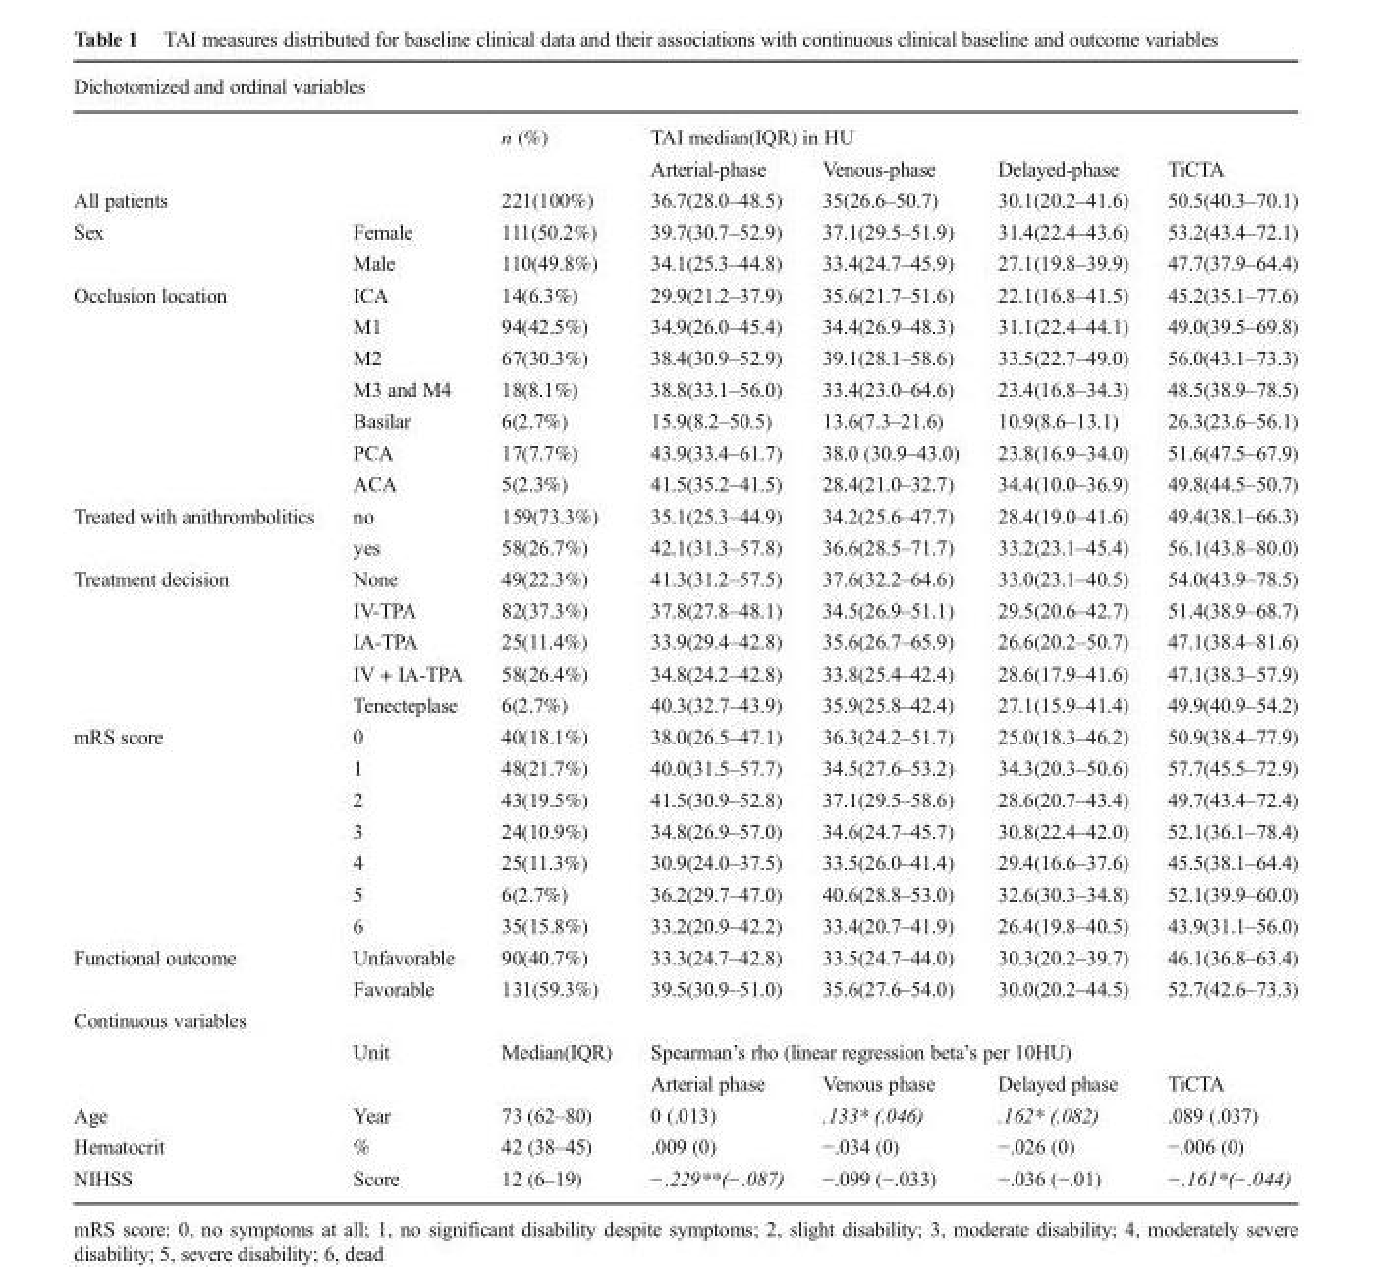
<table><thead><tr><td colspan="7">Dichotomized and ordinal variables</td></tr><tr><td rowspan="2" colspan="2"></td><td rowspan="3">n (%) 221(100%)</td><td colspan="4">TAI median(IQR) in HU</td></tr><tr><td rowspan="2">Arterial-phase 36.7(28.0–48.5)</td><td rowspan="2">Venous-phase 35(26.6–50.7)</td><td rowspan="2">Delayed-phase 30.1(20.2–41.6)</td><td rowspan="2">TiCTA 50.5(40.3–70.1)</td></tr><tr><td>All patients</td><td></td></tr></thead><tbody><tr><td rowspan="2">Sex</td><td>Female</td><td>111(50.2%)</td><td>39.7(30.7–52.9)</td><td>37.1(29.5–51.9)</td><td>31.4(22.4–43.6)</td><td>53.2(43.4–72.1)</td></tr><tr><td>Male</td><td>110(49.8%)</td><td>34.1(25.3–44.8)</td><td>33.4(24.7–45.9)</td><td>27.1(19.8–39.9)</td><td>47.7(37.9–64.4)</td></tr><tr><td rowspan="7">Occlusion location</td><td>ICA</td><td>14(6.3%)</td><td>29.9(21.2–37.9)</td><td>35.6(21.7–51.6)</td><td>22.1(16.8–41.5)</td><td>45.2(35.1–77.6)</td></tr><tr><td>M1</td><td>94(42.5%)</td><td>34.9(26.0–45.4)</td><td>34.4(26.9–48.3)</td><td>31.1(22.4–44.1)</td><td>49.0(39.5–69.8)</td></tr><tr><td>M2</td><td>67(30.3%)</td><td>38.4(30.9–52.9)</td><td>39.1(28.1–58.6)</td><td>33.5(22.7–49.0)</td><td>56.0(43.1–73.3)</td></tr><tr><td>M3 and M4</td><td>18(8.1%)</td><td>38.8(33.1–56.0)</td><td>33.4(23.0–64.6)</td><td>23.4(16.8–34.3)</td><td>48.5(38.9–78.5)</td></tr><tr><td>Basilar</td><td>6(2.7%)</td><td>15.9(8.2–50.5)</td><td>13.6(7.3–21.6)</td><td>10.9(8.6–13.1)</td><td>26.3(23.6–56.1)</td></tr><tr><td>PCA</td><td>17(7.7%)</td><td>43.9(33.4–61.7)</td><td>38.0 (30.9–43.0)</td><td>23.8(16.9–34.0)</td><td>51.6(47.5–67.9)</td></tr><tr><td>ACA</td><td>5(2.3%)</td><td>41.5(35.2–41.5)</td><td>28.4(21.0–32.7)</td><td>34.4(10.0–36.9)</td><td>49.8(44.5–50.7)</td></tr><tr><td rowspan="2">Treated with anithrombolitics</td><td>no</td><td>159(73.3%)</td><td>35.1(25.3–44.9)</td><td>34.2(25.6–47.7)</td><td>28.4(19.0–41.6)</td><td>49.4(38.1–66.3)</td></tr><tr><td>yes</td><td>58(26.7%)</td><td>42.1(31.3–57.8)</td><td>36.6(28.5–71.7)</td><td>33.2(23.1–45.4)</td><td>56.1(43.8–80.0)</td></tr><tr><td rowspan="5">Treatment decision</td><td>None</td><td>49(22.3%)</td><td>41.3(31.2–57.5)</td><td>37.6(32.2–64.6)</td><td>33.0(23.1–40.5)</td><td>54.0(43.9–78.5)</td></tr><tr><td>IV-TPA</td><td>82(37.3%)</td><td>37.8(27.8–48.1)</td><td>34.5(26.9–51.1)</td><td>29.5(20.6–42.7)</td><td>51.4(38.9–68.7)</td></tr><tr><td>IA-TPA</td><td>25(11.4%)</td><td>33.9(29.4–42.8)</td><td>35.6(26.7–65.9)</td><td>26.6(20.2–50.7)</td><td>47.1(38.4–81.6)</td></tr><tr><td>IV + IA-TPA</td><td>58(26.4%)</td><td>34.8(24.2–42.8)</td><td>33.8(25.4–42.4)</td><td>28.6(17.9–41.6)</td><td>47.1(38.3–57.9)</td></tr><tr><td>Tenecteplase</td><td>6(2.7%)</td><td>40.3(32.7–43.9)</td><td>35.9(25.8–42.4)</td><td>27.1(15.9–41.4)</td><td>49.9(40.9–54.2)</td></tr><tr><td rowspan="7">mRS score</td><td>0</td><td>40(18.1%)</td><td>38.0(26.5–47.1)</td><td>36.3(24.2–51.7)</td><td>25.0(18.3–46.2)</td><td>50.9(38.4–77.9)</td></tr><tr><td>1</td><td>48(21.7%)</td><td>40.0(31.5–57.7)</td><td>34.5(27.6–53.2)</td><td>34.3(20.3–50.6)</td><td>57.7(45.5–72.9)</td></tr><tr><td>2</td><td>43(19.5%)</td><td>41.5(30.9–52.8)</td><td>37.1(29.5–58.6)</td><td>28.6(20.7–43.4)</td><td>49.7(43.4–72.4)</td></tr><tr><td>3</td><td>24(10.9%)</td><td>34.8(26.9–57.0)</td><td>34.6(24.7–45.7)</td><td>30.8(22.4–42.0)</td><td>52.1(36.1–78.4)</td></tr><tr><td>4</td><td>25(11.3%)</td><td>30.9(24.0–37.5)</td><td>33.5(26.0–41.4)</td><td>29.4(16.6–37.6)</td><td>45.5(38.1–64.4)</td></tr><tr><td>5</td><td>6(2.7%)</td><td>36.2(29.7–47.0)</td><td>40.6(28.8–53.0)</td><td>32.6(30.3–34.8)</td><td>52.1(39.9–60.0)</td></tr><tr><td>6</td><td>35(15.8%)</td><td>33.2(20.9–42.2)</td><td>33.4(20.7–41.9)</td><td>26.4(19.8–40.5)</td><td>43.9(31.1–56.0)</td></tr><tr><td rowspan="2">Functional outcome</td><td>Unfavorable</td><td>90(40.7%)</td><td>33.3(24.7–42.8)</td><td>33.5(24.7–44.0)</td><td>30.3(20.2–39.7)</td><td>46.1(36.8–63.4)</td></tr><tr><td>Favorable</td><td>131(59.3%)</td><td>39.5(30.9–51.0)</td><td>35.6(27.6–54.0)</td><td>30.0(20.2–44.5)</td><td>52.7(42.6–73.3)</td></tr><tr><td colspan="7">Continuous variables</td></tr><tr><td rowspan="2"></td><td rowspan="2">Unit</td><td rowspan="2">Median(IQR)</td><td colspan="4">Spearman’s rho (linear regression beta’s per 10HU)</td></tr><tr><td>Arterial phase</td><td>Venous phase</td><td>Delayed phase</td><td>TiCTA</td></tr><tr><td>Age</td><td>Year</td><td>73 (62–80)</td><td>0 (.013)</td><td>.133* (.046)</td><td>.162* (.082)</td><td>.089 (.037)</td></tr><tr><td>Hematocrit</td><td>%</td><td>42 (38–45)</td><td>.009 (0)</td><td>−.034 (0)</td><td>−.026 (0)</td><td>−.006 (0)</td></tr><tr><td>NIHSS</td><td>Score</td><td>12 (6–19)</td><td>−.229**(−.087)</td><td>−.099 (−.033)</td><td>−.036 (−.01)</td><td>−.161*(−.044)</td></tr></tbody></table>